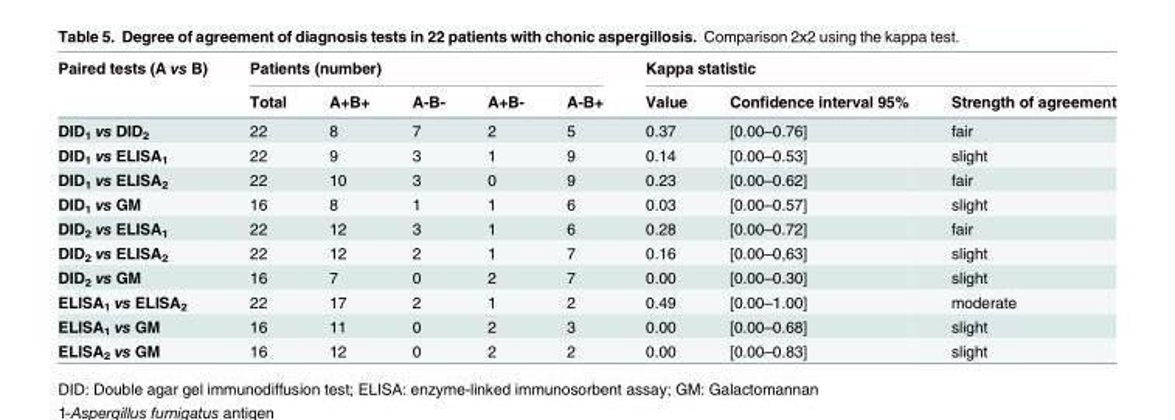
<table><thead><tr><td rowspan="2">Paired tests (A vs B)</td><td colspan="5">Patients (number)</td><td colspan="3">Kappa statistic</td></tr><tr><td>Total</td><td>A+B+</td><td>A-B-</td><td>A+B-</td><td>A-B+</td><td>Value</td><td>Confidence interval 95%</td><td>Strength of agreement</td></tr></thead><tbody><tr><td>DID<sub>1</sub> vs DID<sub>2</sub></td><td>22</td><td>8</td><td>7</td><td>2</td><td>5</td><td>0.37</td><td>[0.00–0.76]</td><td>fair</td></tr><tr><td>DID<sub>1</sub> vs ELISA<sub>1</sub></td><td>22</td><td>9</td><td>3</td><td>1</td><td>9</td><td>0.14</td><td>[0.00–0.53]</td><td>slight</td></tr><tr><td>DID<sub>1</sub> vs ELISA<sub>2</sub></td><td>22</td><td>10</td><td>3</td><td>0</td><td>9</td><td>0.23</td><td>[0.00–0.62]</td><td>fair</td></tr><tr><td>DID<sub>1</sub> vs GM</td><td>16</td><td>8</td><td>1</td><td>1</td><td>6</td><td>0.03</td><td>[0.00–0.57]</td><td>slight</td></tr><tr><td>DID<sub>2</sub> vs ELISA<sub>1</sub></td><td>22</td><td>12</td><td>3</td><td>1</td><td>6</td><td>0.28</td><td>[0.00–0.72]</td><td>fair</td></tr><tr><td>DID<sub>2</sub> vs ELISA<sub>2</sub></td><td>22</td><td>12</td><td>2</td><td>1</td><td>7</td><td>0.16</td><td>[0.00–0,63]</td><td>slight</td></tr><tr><td>DID<sub>2</sub> vs GM</td><td>16</td><td>7</td><td>0</td><td>2</td><td>7</td><td>0.00</td><td>[0.00–0.30]</td><td>slight</td></tr><tr><td>ELISA<sub>1</sub> vs ELISA<sub>2</sub></td><td>22</td><td>17</td><td>2</td><td>1</td><td>2</td><td>0.49</td><td>[0.00–1.00]</td><td>moderate</td></tr><tr><td>ELISA<sub>1</sub> vs GM</td><td>16</td><td>11</td><td>0</td><td>2</td><td>3</td><td>0.00</td><td>[0.00–0.68]</td><td>slight</td></tr><tr><td>ELISA<sub>2</sub> vs GM</td><td>16</td><td>12</td><td>0</td><td>2</td><td>2</td><td>0.00</td><td>[0.00–0.83]</td><td>slight</td></tr></tbody></table>